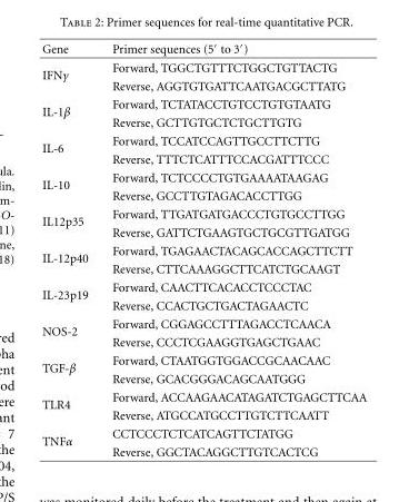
<table><thead><tr><td>Gene</td><td>Primer sequences (5′ to 3′)</td></tr></thead><tbody><tr><td rowspan="2">IFNγ</td><td>Forward, TGGCTGTTTCTGGCTGTTACTG</td></tr><tr><td>Reverse, AGGTGTGATTCAATGACGCTTATG</td></tr><tr><td rowspan="2">IL-1β</td><td>Forward, TCTATACCTGTCCTGTGTAATG</td></tr><tr><td>Reverse, GCTTGTGCTCTGCTTGTG</td></tr><tr><td rowspan="2">IL-6</td><td>Forward, TCCATCCAGTTGCCTTCTTG</td></tr><tr><td>Reverse, TTTCTCATTTCCACGATTTCCC</td></tr><tr><td rowspan="2">IL-10</td><td>Forward, TCTCCCCTGTGAAAATAAGAG</td></tr><tr><td>Reverse, GCCTTGTAGACACCTTGG</td></tr><tr><td rowspan="2">IL12p35</td><td>Forward, TTGATGATGACCCTGTGCCTTGG</td></tr><tr><td>Reverse, GATTCTGAAGTGCTGCGTTGATGG</td></tr><tr><td rowspan="2">IL-12p40</td><td>Forward, TGAGAACTACAGCACCAGCTTCTT</td></tr><tr><td>Reverse, CTTCAAAGGCTTCATCTGCAAGT</td></tr><tr><td rowspan="2">IL-23p19</td><td>Forward, CAACTTCACACCTCCCTAC</td></tr><tr><td>Reverse, CCACTGCTGACTAGAACTC</td></tr><tr><td rowspan="2">NOS-2</td><td>Forward, CGGAGCCTTTAGACCTCAACA</td></tr><tr><td>Reverse, CCCTCGAAGGTGAGCTGAAC</td></tr><tr><td rowspan="2">TGF-β</td><td>Forward, CTAATGGTGGACCGCAACAAC</td></tr><tr><td>Reverse, GCACGGGACAGCAATGGG</td></tr><tr><td rowspan="2">TLR4</td><td>Forward, ACCAAGAACATAGATCTGAGCTTCAA</td></tr><tr><td>Reverse, ATGCCATGCCTTGTCTTCAATT</td></tr><tr><td rowspan="2">TNFα</td><td>CCTCCCTCTCATCAGTTCTATGG</td></tr><tr><td>Reverse, GGCTACAGGCTTGTCACTCG</td></tr></tbody></table>